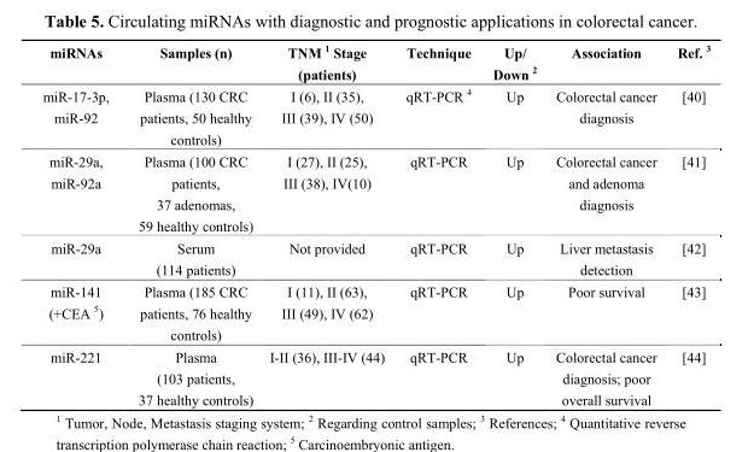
<table><thead><tr><td>miRNAs</td><td>Samples (n)</td><td>TNM <sup>1</sup> Stage (patients)</td><td>Technique</td><td>Up/ Down <sup>2</sup></td><td>Association</td><td>Ref. <sup>3</sup></td></tr></thead><tbody><tr><td>miR-17-3p, miR-92</td><td>Plasma (130 CRC patients, 50 healthy controls)</td><td>I (6), II (35), III (39), IV (50)</td><td>qRT-PCR <sup>4</sup></td><td>Up</td><td>Colorectal cancer diagnosis</td><td>[40]</td></tr><tr><td>miR-29a, miR-92a</td><td>Plasma (100 CRC patients, 37 adenomas, 59 healthy controls)</td><td>I (27), II (25), III (38), IV(10)</td><td>qRT-PCR</td><td>Up</td><td>Colorectal cancer and adenoma diagnosis</td><td>[41]</td></tr><tr><td>miR-29a</td><td>Serum (114 patients)</td><td>Not provided</td><td>qRT-PCR</td><td>Up</td><td>Liver metastasis detection</td><td>[42]</td></tr><tr><td>miR-141 (+CEA <sup>5</sup>)</td><td>Plasma (185 CRC patients, 76 healthy controls)</td><td>I (11), II (63), III (49), IV (62)</td><td>qRT-PCR</td><td>Up</td><td>Poor survival</td><td>[43]</td></tr><tr><td>miR-221</td><td>Plasma (103 patients, 37 healthy controls)</td><td>I-II (36), III-IV (44)</td><td>qRT-PCR</td><td>Up</td><td>Colorectal cancer diagnosis; poor overall survival</td><td>[44]</td></tr></tbody></table>